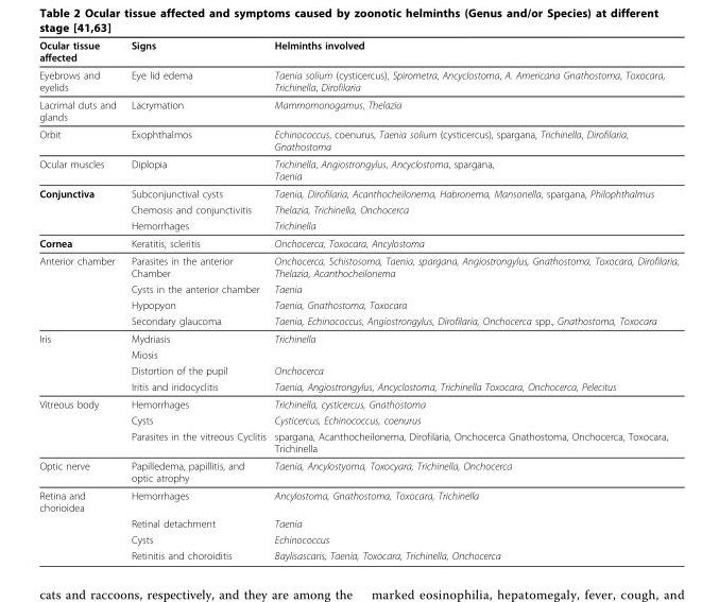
<table><thead><tr><td>Ocular tissue affected</td><td>Signs</td><td>Helminths involved</td></tr></thead><tbody><tr><td>Eyebrows and eyelids</td><td>Eye lid edema</td><td>Taenia solium (cysticercus), Spirometra, Ancyclostoma, A. Americana Gnathostoma, Toxocara, Trichinella, Dirofilaria</td></tr><tr><td>Lacrimal duts and glands</td><td>Lacrymation</td><td>Mammomonogamus, Thelazia</td></tr><tr><td>Orbit</td><td>Exophthalmos</td><td>Echinococcus, coenurus, Taenia solium (cysticercus), spargana, Trichinella, Dirofilaria, Gnathostoma</td></tr><tr><td>Ocular muscles</td><td>Diplopia</td><td>Trichinella, Angiostrongylus, Ancyclostoma, spargana, Taenia</td></tr><tr><td rowspan="3">Conjunctiva</td><td>Subconjunctival cysts</td><td>Taenia, Dirofilaria, Acanthocheilonema, Habronema, Mansonella, spargana, Philophthalmus</td></tr><tr><td>Chemosis and conjunctivitis</td><td>Thelazia, Trichinella, Onchocerca</td></tr><tr><td>Hemorrhages</td><td>Trichinella</td></tr><tr><td>Cornea</td><td>Keratitis, scleritis</td><td>Onchocerca, Toxocara, Ancylostoma</td></tr><tr><td rowspan="4">Anterior chamber</td><td>Parasites in the anterior Chamber</td><td>Onchocerca, Schistosoma, Taenia, spargana, Angiostrongylus, Gnathostoma, Toxocara, Dirofilaria, Thelazia, Acanthocheilonema</td></tr><tr><td>Cysts in the anterior chamber</td><td>Taenia</td></tr><tr><td>Hypopyon</td><td>Taenia, Gnathostoma, Toxocara</td></tr><tr><td>Secondary glaucoma</td><td>Taenia, Echinococcus, Angiostrongylus, Dirofilaria, Onchocerca spp., Gnathostoma, Toxocara</td></tr><tr><td rowspan="4">Iris</td><td>Mydriasis</td><td>Trichinella</td></tr><tr><td>Miosis</td><td></td></tr><tr><td>Distortion of the pupil</td><td>Onchocerca</td></tr><tr><td>Iritis and iridocyclitis</td><td>Taenia, Angiostrongylus, Ancyclostoma, Trichinella Toxocara, Onchocerca, Pelecitus</td></tr><tr><td rowspan="3">Vitreous body</td><td>Hemorrhages</td><td>Trichinella, cysticercus, Gnathostoma</td></tr><tr><td>Cysts</td><td>Cysticercus, Echinococcus, coenurus</td></tr><tr><td>Parasites in the vitreous Cyclitis</td><td>spargana, Acanthocheilonema, Dirofilaria, Onchocerca Gnathostoma, Onchocerca, Toxocara, Trichinella</td></tr><tr><td>Optic nerve</td><td>Papilledema, papillitis, and optic atrophy</td><td>Taenia, Ancylostyoma, Toxocyara, Trichinella, Onchocerca</td></tr><tr><td rowspan="4">Retina and chorioidea</td><td>Hemorrhages</td><td>Ancylostoma, Gnathostoma, Toxocara, Trichinella</td></tr><tr><td>Retinal detachment</td><td>Taenia</td></tr><tr><td>Cysts</td><td>Echinococcus</td></tr><tr><td>Retinitis and choroiditis</td><td>Baylisascaris, Taenia, Toxocara, Trichinella, Onchocerca</td></tr></tbody></table>